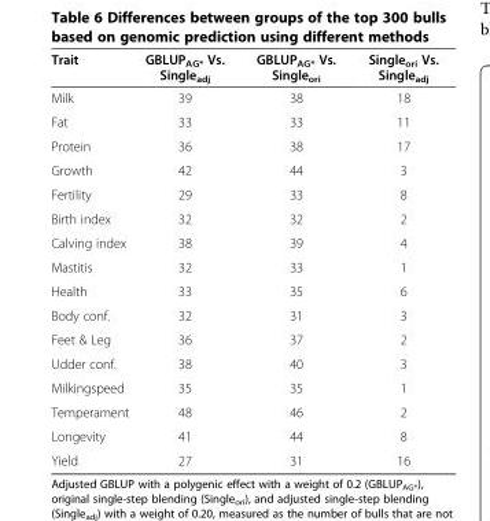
<table><thead><tr><td>Trait</td><td>GBLUP<sub>AG*</sub> Vs. Single<sub>adj</sub></td><td>GBLUP<sub>AG*</sub> Vs. Single<sub>ori</sub></td><td>Single<sub>ori</sub> Vs. Single<sub>adj</sub></td></tr></thead><tbody><tr><td>Milk</td><td>39</td><td>38</td><td>18</td></tr><tr><td>Fat</td><td>33</td><td>33</td><td>11</td></tr><tr><td>Protein</td><td>36</td><td>38</td><td>17</td></tr><tr><td>Growth</td><td>42</td><td>44</td><td>3</td></tr><tr><td>Fertility</td><td>29</td><td>33</td><td>8</td></tr><tr><td>Birth index</td><td>32</td><td>32</td><td>2</td></tr><tr><td>Calving index</td><td>38</td><td>39</td><td>4</td></tr><tr><td>Mastitis</td><td>32</td><td>33</td><td>1</td></tr><tr><td>Health</td><td>33</td><td>35</td><td>6</td></tr><tr><td>Body conf.</td><td>32</td><td>31</td><td>3</td></tr><tr><td>Feet &amp; Leg</td><td>36</td><td>37</td><td>2</td></tr><tr><td>Udder conf.</td><td>38</td><td>40</td><td>3</td></tr><tr><td>Milkingspeed</td><td>35</td><td>35</td><td>1</td></tr><tr><td>Temperament</td><td>48</td><td>46</td><td>2</td></tr><tr><td>Longevity</td><td>41</td><td>44</td><td>8</td></tr><tr><td>Yield</td><td>27</td><td>31</td><td>16</td></tr></tbody></table>